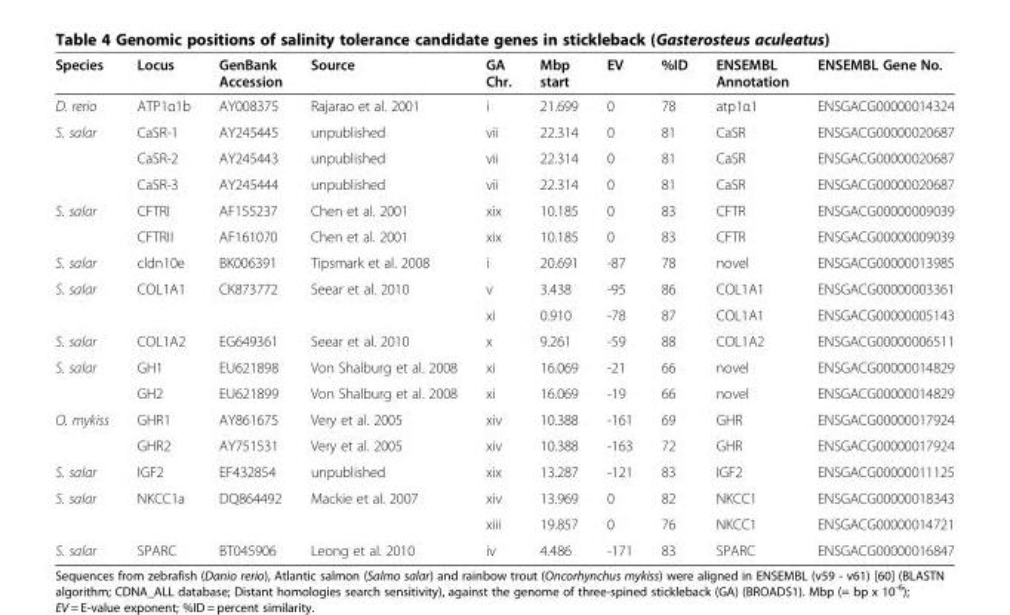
<table><thead><tr><td>Species</td><td>Locus</td><td>GenBank Accession</td><td>Source</td><td>GA Chr.</td><td>Mbp start</td><td>EV</td><td>%ID</td><td>ENSEMBL Annotation</td><td>ENSEMBL Gene No.</td></tr></thead><tbody><tr><td>D. rerio</td><td>ATP1α1b</td><td>AY008375</td><td>Rajarao et al. 2001</td><td>i</td><td>21.699</td><td>0</td><td>78</td><td>atp1α1</td><td>ENSGACG00000014324</td></tr><tr><td rowspan="3">S. salar</td><td>CaSR-1</td><td>AY245445</td><td>unpublished</td><td>vii</td><td>22.314</td><td>0</td><td>81</td><td>CaSR</td><td>ENSGACG00000020687</td></tr><tr><td>CaSR-2</td><td>AY245443</td><td>unpublished</td><td>vii</td><td>22.314</td><td>0</td><td>81</td><td>CaSR</td><td>ENSGACG00000020687</td></tr><tr><td>CaSR-3</td><td>AY245444</td><td>unpublished</td><td>vii</td><td>22.314</td><td>0</td><td>81</td><td>CaSR</td><td>ENSGACG00000020687</td></tr><tr><td rowspan="2">S. salar</td><td>CFTRI</td><td>AF155237</td><td>Chen et al. 2001</td><td>xix</td><td>10.185</td><td>0</td><td>83</td><td>CFTR</td><td>ENSGACG00000009039</td></tr><tr><td>CFTRII</td><td>AF161070</td><td>Chen et al. 2001</td><td>xix</td><td>10.185</td><td>0</td><td>83</td><td>CFTR</td><td>ENSGACG00000009039</td></tr><tr><td>S. salar</td><td>cldn10e</td><td>BK006391</td><td>Tipsmark et al. 2008</td><td>i</td><td>20.691</td><td>-87</td><td>78</td><td>novel</td><td>ENSGACG00000013985</td></tr><tr><td rowspan="2">S. salar</td><td>COL1A1</td><td>CK873772</td><td>Seear et al. 2010</td><td>v</td><td>3.438</td><td>-95</td><td>86</td><td>COL1A1</td><td>ENSGACG00000003361</td></tr><tr><td></td><td></td><td></td><td>xi</td><td>0.910</td><td>-78</td><td>87</td><td>COL1A1</td><td>ENSGACG00000005143</td></tr><tr><td>S. salar</td><td>COL1A2</td><td>EG649361</td><td>Seear et al. 2010</td><td>x</td><td>9.261</td><td>-59</td><td>88</td><td>COL1A2</td><td>ENSGACG00000006511</td></tr><tr><td rowspan="2">S. salar</td><td>GH1</td><td>EU621898</td><td>Von Shalburg et al. 2008</td><td>xi</td><td>16.069</td><td>-21</td><td>66</td><td>novel</td><td>ENSGACG00000014829</td></tr><tr><td>GH2</td><td>EU621899</td><td>Von Shalburg et al. 2008</td><td>xi</td><td>16.069</td><td>-19</td><td>66</td><td>novel</td><td>ENSGACG00000014829</td></tr><tr><td rowspan="2">O. mykiss</td><td>GHR1</td><td>AY861675</td><td>Very et al. 2005</td><td>xiv</td><td>10.388</td><td>-161</td><td>69</td><td>GHR</td><td>ENSGACG00000017924</td></tr><tr><td>GHR2</td><td>AY751531</td><td>Very et al. 2005</td><td>xiv</td><td>10.388</td><td>-163</td><td>72</td><td>GHR</td><td>ENSGACG00000017924</td></tr><tr><td>S. salar</td><td>IGF2</td><td>EF432854</td><td>unpublished</td><td>xix</td><td>13.287</td><td>-121</td><td>83</td><td>IGF2</td><td>ENSGACG00000011125</td></tr><tr><td rowspan="2">S. salar</td><td>NKCC1a</td><td>DQ864492</td><td>Mackie et al. 2007</td><td>xiv</td><td>13.969</td><td>0</td><td>82</td><td>NKCC1</td><td>ENSGACG00000018343</td></tr><tr><td></td><td></td><td></td><td>xiii</td><td>19.857</td><td>0</td><td>76</td><td>NKCC1</td><td>ENSGACG00000014721</td></tr><tr><td>S. salar</td><td>SPARC</td><td>BT045906</td><td>Leong et al. 2010</td><td>iv</td><td>4.486</td><td>-171</td><td>83</td><td>SPARC</td><td>ENSGACG00000016847</td></tr></tbody></table>